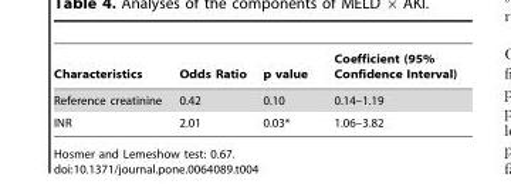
<table><thead><tr><td>Characteristics</td><td>Odds Ratio</td><td>p value</td><td>Coefficient (95% Confidence Interval)</td></tr></thead><tbody><tr><td>Reference creatinine</td><td>0.42</td><td>0.10</td><td>0.14–1.19</td></tr><tr><td>INR</td><td>2.01</td><td>0.03*</td><td>1.06–3.82</td></tr></tbody></table>